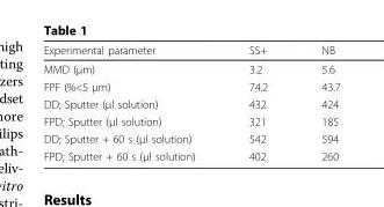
<table><thead><tr><td>Experimental parameter</td><td>SS+</td><td>NB</td></tr></thead><tbody><tr><td>MMD (µm)</td><td>3.2</td><td>5.6</td></tr><tr><td>FPF (%&lt;5 µm)</td><td>74.2</td><td>43.7</td></tr><tr><td>DD; Sputter (µl solution)</td><td>432</td><td>424</td></tr><tr><td>FPD; Sputter (µl solution)</td><td>321</td><td>185</td></tr><tr><td>DD; Sputter + 60 s (µl solution)</td><td>542</td><td>594</td></tr><tr><td>FPD; Sputter + 60 s (µl solution)</td><td>402</td><td>260</td></tr></tbody></table>